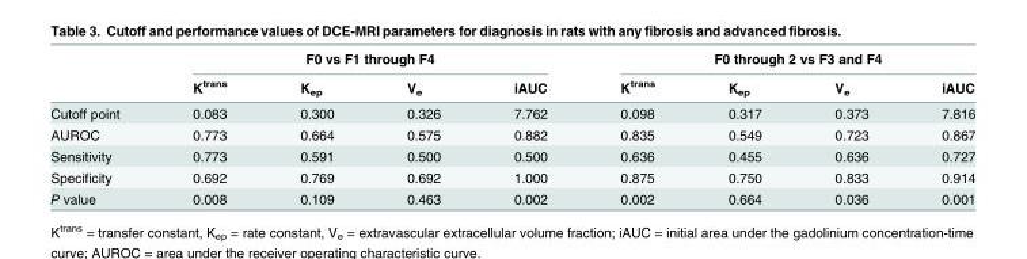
<table><thead><tr><td rowspan="2"></td><td colspan="4">F0 vs F1 through F4</td><td colspan="4">F0 through 2 vs F3 and F4</td></tr><tr><td>K<sup>trans</sup></td><td>K<sub>ep</sub></td><td>V<sub>e</sub></td><td>iAUC</td><td>K<sup>trans</sup></td><td>K<sub>ep</sub></td><td>V<sub>e</sub></td><td>iAUC</td></tr></thead><tbody><tr><td>Cutoff point</td><td>0.083</td><td>0.300</td><td>0.326</td><td>7.762</td><td>0.098</td><td>0.317</td><td>0.373</td><td>7.816</td></tr><tr><td>AUROC</td><td>0.773</td><td>0.664</td><td>0.575</td><td>0.882</td><td>0.835</td><td>0.549</td><td>0.723</td><td>0.867</td></tr><tr><td>Sensitivity</td><td>0.773</td><td>0.591</td><td>0.500</td><td>0.500</td><td>0.636</td><td>0.455</td><td>0.636</td><td>0.727</td></tr><tr><td>Specificity</td><td>0.692</td><td>0.769</td><td>0.692</td><td>1.000</td><td>0.875</td><td>0.750</td><td>0.833</td><td>0.914</td></tr><tr><td>P value</td><td>0.008</td><td>0.109</td><td>0.463</td><td>0.002</td><td>0.002</td><td>0.664</td><td>0.036</td><td>0.001</td></tr></tbody></table>